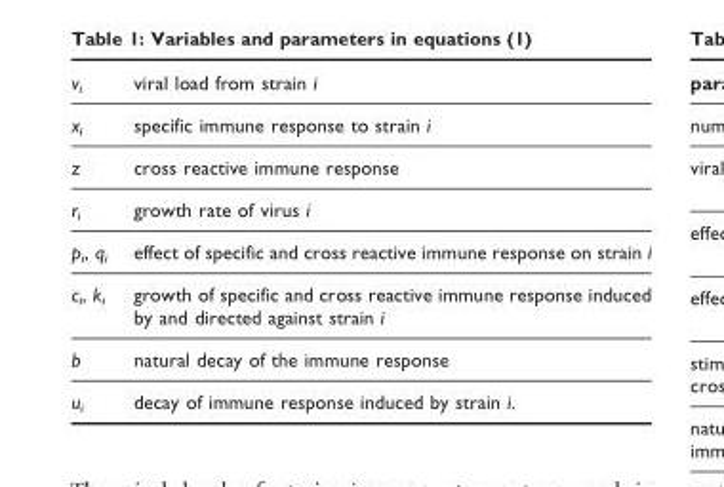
<table><thead><tr><td>v<sub>i</sub></td><td>viral load from strain i</td></tr></thead><tbody><tr><td>x<sub>i</sub></td><td>specific immune response to strain i</td></tr><tr><td>z</td><td>cross reactive immune response</td></tr><tr><td>r<sub>i</sub></td><td>growth rate of virus i</td></tr><tr><td>p<sub>i</sub>, q<sub>i</sub></td><td>effect of specific and cross reactive immune response on strain i</td></tr><tr><td>c<sub>i</sub>, k<sub>i</sub></td><td>growth of specific and cross reactive immune response induced by and directed against strain i</td></tr><tr><td>b</td><td>natural decay of the immune response</td></tr><tr><td>u<sub>i</sub></td><td>decay of immune response induced by strain i.</td></tr></tbody></table>